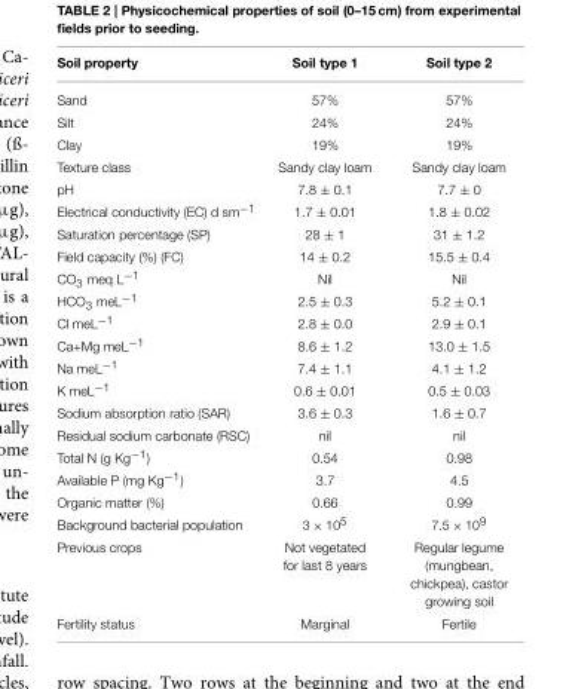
<table><thead><tr><td>Soil property</td><td>Soil type 1</td><td>Soil type 2</td></tr></thead><tbody><tr><td>Sand</td><td>57%</td><td>57%</td></tr><tr><td>Silt</td><td>24%</td><td>24%</td></tr><tr><td>Clay</td><td>19%</td><td>19%</td></tr><tr><td>Texture class</td><td>Sandy clay loam</td><td>Sandy clay loam</td></tr><tr><td>pH</td><td>7.8 ± 0.1</td><td>7.7 ± 0</td></tr><tr><td>Electrical conductivity (EC) d sm<sup>−1</sup></td><td>1.7 ± 0.01</td><td>1.8 ± 0.02</td></tr><tr><td>Saturation percentage (SP)</td><td>28 ± 1</td><td>31 ± 1.2</td></tr><tr><td>Field capacity (%) (FC)</td><td>14 ± 0.2</td><td>15.5 ± 0.4</td></tr><tr><td>CO<sub>3</sub> meq L<sup>−1</sup></td><td>Nil</td><td>Nil</td></tr><tr><td>HCO<sub>3</sub> meL<sup>−1</sup></td><td>2.5 ± 0.3</td><td>5.2 ± 0.1</td></tr><tr><td>Cl meL<sup>−1</sup></td><td>2.8 ± 0.0</td><td>2.9 ± 0.1</td></tr><tr><td>Ca+Mg meL<sup>−1</sup></td><td>8.6 ± 1.2</td><td>13.0 ± 1.5</td></tr><tr><td>Na meL<sup>−1</sup></td><td>7.4 ± 1.1</td><td>4.1 ± 1.2</td></tr><tr><td>K meL<sup>−1</sup></td><td>0.6 ± 0.01</td><td>0.5 ± 0.03</td></tr><tr><td>Sodium absorption ratio (SAR)</td><td>3.6 ± 0.3</td><td>1.6 ± 0.7</td></tr><tr><td>Residual sodium carbonate (RSC)</td><td>nil</td><td>nil</td></tr><tr><td>Total N (g Kg<sup>−1</sup>)</td><td>0.54</td><td>0.98</td></tr><tr><td>Available P (mg Kg<sup>−1</sup>)</td><td>3.7</td><td>4.5</td></tr><tr><td>Organic matter (%)</td><td>0.66</td><td>0.99</td></tr><tr><td>Background bacterial population</td><td>3 × 10<sup>5</sup></td><td>7.5 × 10<sup>9</sup></td></tr><tr><td>Previous crops</td><td>Not vegetated for last 8 years</td><td>Regular legume (mungbean, chickpea), castor growing soil</td></tr><tr><td>Fertility status</td><td>Marginal</td><td>Fertile</td></tr></tbody></table>